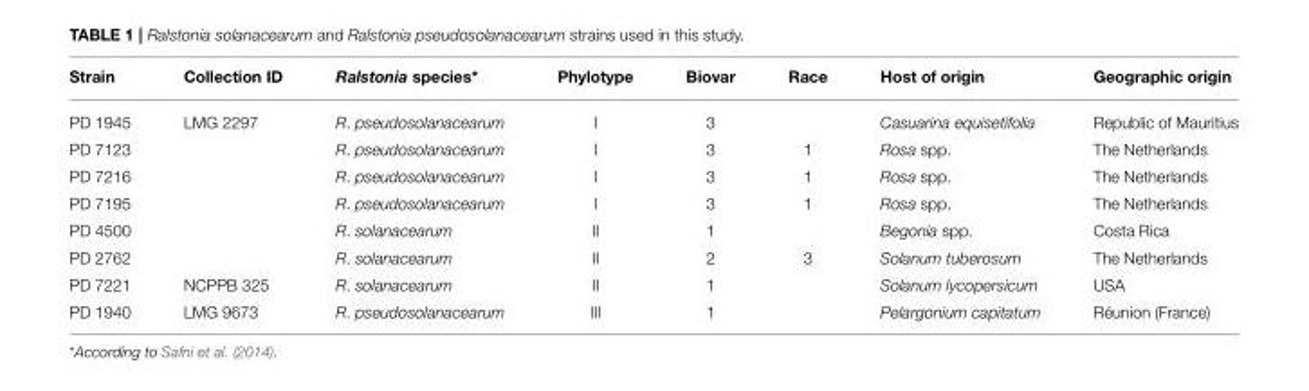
<table><thead><tr><td>Strain</td><td>Collection ID</td><td>Ralstonia species*</td><td>Phylotype</td><td>Biovar</td><td>Race</td><td>Host of origin</td><td>Geographic origin</td></tr></thead><tbody><tr><td>PD 1945</td><td>LMG 2297</td><td>R. pseudosolanacearum</td><td>I</td><td>3</td><td></td><td>Casuarina equisetifolia</td><td>Republic of Mauritius</td></tr><tr><td>PD 7123</td><td></td><td>R. pseudosolanacearum</td><td>I</td><td>3</td><td>1</td><td>Rosa spp.</td><td>The Netherlands</td></tr><tr><td>PD 7216</td><td></td><td>R. pseudosolanacearum</td><td>I</td><td>3</td><td>1</td><td>Rosa spp.</td><td>The Netherlands</td></tr><tr><td>PD 7195</td><td></td><td>R. pseudosolanacearum</td><td>I</td><td>3</td><td>1</td><td>Rosa spp.</td><td>The Netherlands</td></tr><tr><td>PD 4500</td><td></td><td>R. solanacearum</td><td>II</td><td>1</td><td></td><td>Begonia spp.</td><td>Costa Rica</td></tr><tr><td>PD 2762</td><td></td><td>R. solanacearum</td><td>II</td><td>2</td><td>3</td><td>Solanum tuberosum</td><td>The Netherlands</td></tr><tr><td>PD 7221</td><td>NCPPB 325</td><td>R. solanacearum</td><td>II</td><td>1</td><td></td><td>Solanum lycopersicum</td><td>USA</td></tr><tr><td>PD 1940</td><td>LMG 9673</td><td>R. pseudosolanacearum</td><td>III</td><td>1</td><td></td><td>Pelargonium capitatum</td><td>Réunion (France)</td></tr></tbody></table>